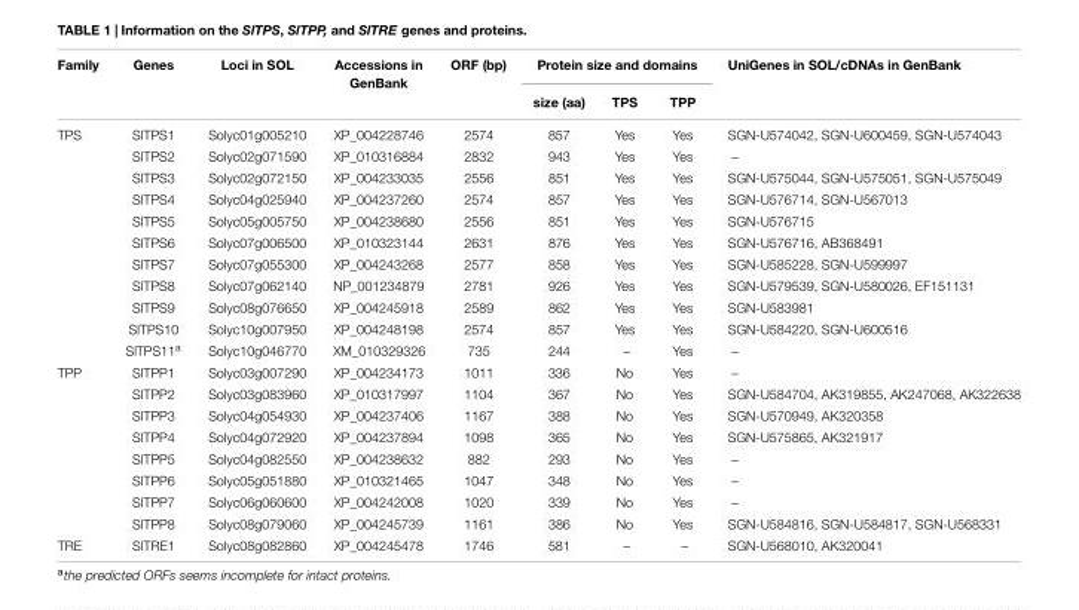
<table><thead><tr><td rowspan="2">Family</td><td rowspan="2">Genes</td><td rowspan="2">Loci in SOL</td><td rowspan="2">Accessions in GenBank</td><td rowspan="2">ORF (bp)</td><td colspan="3">Protein size and domains</td><td rowspan="2">UniGenes in SOL/cDNAs in GenBank</td></tr><tr><td>size (aa)</td><td>TPS</td><td>TPP</td></tr></thead><tbody><tr><td rowspan="11">TPS</td><td>SlTPS1</td><td>Solyc01g005210</td><td>XP_004228746</td><td>2574</td><td>857</td><td>Yes</td><td>Yes</td><td>SGN-U574042, SGN-U600459, SGN-U574043</td></tr><tr><td>SlTPS2</td><td>Solyc02g071590</td><td>XP_010316884</td><td>2832</td><td>943</td><td>Yes</td><td>Yes</td><td>–</td></tr><tr><td>SlTPS3</td><td>Solyc02g072150</td><td>XP_004233035</td><td>2556</td><td>851</td><td>Yes</td><td>Yes</td><td>SGN-U575044, SGN-U575051, SGN-U575049</td></tr><tr><td>SlTPS4</td><td>Solyc04g025940</td><td>XP_004237260</td><td>2574</td><td>857</td><td>Yes</td><td>Yes</td><td>SGN-U576714, SGN-U567013</td></tr><tr><td>SlTPS5</td><td>Solyc05g005750</td><td>XP_004238680</td><td>2556</td><td>851</td><td>Yes</td><td>Yes</td><td>SGN-U576715</td></tr><tr><td>SlTPS6</td><td>Solyc07g006500</td><td>XP_010323144</td><td>2631</td><td>876</td><td>Yes</td><td>Yes</td><td>SGN-U576716, AB368491</td></tr><tr><td>SlTPS7</td><td>Solyc07g055300</td><td>XP_004243268</td><td>2577</td><td>858</td><td>Yes</td><td>Yes</td><td>SGN-U585228, SGN-U599997</td></tr><tr><td>SlTPS8</td><td>Solyc07g062140</td><td>NP_001234879</td><td>2781</td><td>926</td><td>Yes</td><td>Yes</td><td>SGN-U579539, SGN-U580026, EF151131</td></tr><tr><td>SlTPS9</td><td>Solyc08g076650</td><td>XP_004245918</td><td>2589</td><td>862</td><td>Yes</td><td>Yes</td><td>SGN-U583981</td></tr><tr><td>SlTPS10</td><td>Solyc10g007950</td><td>XP_004248198</td><td>2574</td><td>857</td><td>Yes</td><td>Yes</td><td>SGN-U584220, SGN-U600516</td></tr><tr><td>SlTPS11<sup>a</sup></td><td>Solyc10g046770</td><td>XM_010329326</td><td>735</td><td>244</td><td>–</td><td>Yes</td><td>–</td></tr><tr><td rowspan="8">TPP</td><td>SlTPP1</td><td>Solyc03g007290</td><td>XP_004234173</td><td>1011</td><td>336</td><td>No</td><td>Yes</td><td>–</td></tr><tr><td>SlTPP2</td><td>Solyc03g083960</td><td>XP_010317997</td><td>1104</td><td>367</td><td>No</td><td>Yes</td><td>SGN-U584704, AK319855, AK247068, AK322638</td></tr><tr><td>SlTPP3</td><td>Solyc04g054930</td><td>XP_004237406</td><td>1167</td><td>388</td><td>No</td><td>Yes</td><td>SGN-U570949, AK320358</td></tr><tr><td>SlTPP4</td><td>Solyc04g072920</td><td>XP_004237894</td><td>1098</td><td>365</td><td>No</td><td>Yes</td><td>SGN-U575865, AK321917</td></tr><tr><td>SlTPP5</td><td>Solyc04g082550</td><td>XP_004238632</td><td>882</td><td>293</td><td>No</td><td>Yes</td><td>–</td></tr><tr><td>SlTPP6</td><td>Solyc05g051880</td><td>XP_010321465</td><td>1047</td><td>348</td><td>No</td><td>Yes</td><td>–</td></tr><tr><td>SlTPP7</td><td>Solyc06g060600</td><td>XP_004242008</td><td>1020</td><td>339</td><td>No</td><td>Yes</td><td>–</td></tr><tr><td>SlTPP8</td><td>Solyc08g079060</td><td>XP_004245739</td><td>1161</td><td>386</td><td>No</td><td>Yes</td><td>SGN-U584816, SGN-U584817, SGN-U568331</td></tr><tr><td>TRE</td><td>SlTRE1</td><td>Solyc08g082860</td><td>XP_004245478</td><td>1746</td><td>581</td><td>–</td><td>–</td><td>SGN-U568010, AK320041</td></tr></tbody></table>